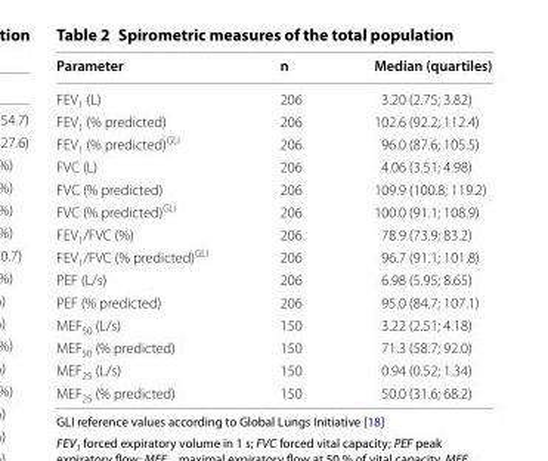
<table><thead><tr><td>Parameter</td><td>n</td><td>Median (quartiles)</td></tr></thead><tbody><tr><td>FEV<sub>1</sub> (L)</td><td>206</td><td>3.20 (2.75; 3.82)</td></tr><tr><td>FEV<sub>1</sub> (% predicted)</td><td>206</td><td>102.6 (92.2; 112.4)</td></tr><tr><td>FEV<sub>1</sub> (% predicted)<sup>GLI</sup></td><td>206</td><td>96.0 (87.6; 105.5)</td></tr><tr><td>FVC (L)</td><td>206</td><td>4.06 (3.51; 4.98)</td></tr><tr><td>FVC (% predicted)</td><td>206</td><td>109.9 (100.8; 119.2)</td></tr><tr><td>FVC (% predicted)<sup>GLI</sup></td><td>206</td><td>100.0 (91.1; 108.9)</td></tr><tr><td>FEV<sub>1</sub>/FVC (%)</td><td>206</td><td>78.9 (73.9; 83.2)</td></tr><tr><td>FEV<sub>1</sub>/FVC (% predicted)<sup>GLI</sup></td><td>206</td><td>96.7 (91.1; 101.8)</td></tr><tr><td>PEF (L/s)</td><td>206</td><td>6.98 (5.95; 8.65)</td></tr><tr><td>PEF (% predicted)</td><td>206</td><td>95.0 (84.7; 107.1)</td></tr><tr><td>MEF<sub>50</sub> (L/s)</td><td>150</td><td>3.22 (2.51; 4.18)</td></tr><tr><td>MEF<sub>50</sub> (% predicted)</td><td>150</td><td>71.3 (58.7; 92.0)</td></tr><tr><td>MEF<sub>25</sub> (L/s)</td><td>150</td><td>0.94 (0.52; 1.34)</td></tr><tr><td>MEF<sub>25</sub> (% predicted)</td><td>150</td><td>50.0 (31.6; 68.2)</td></tr></tbody></table>